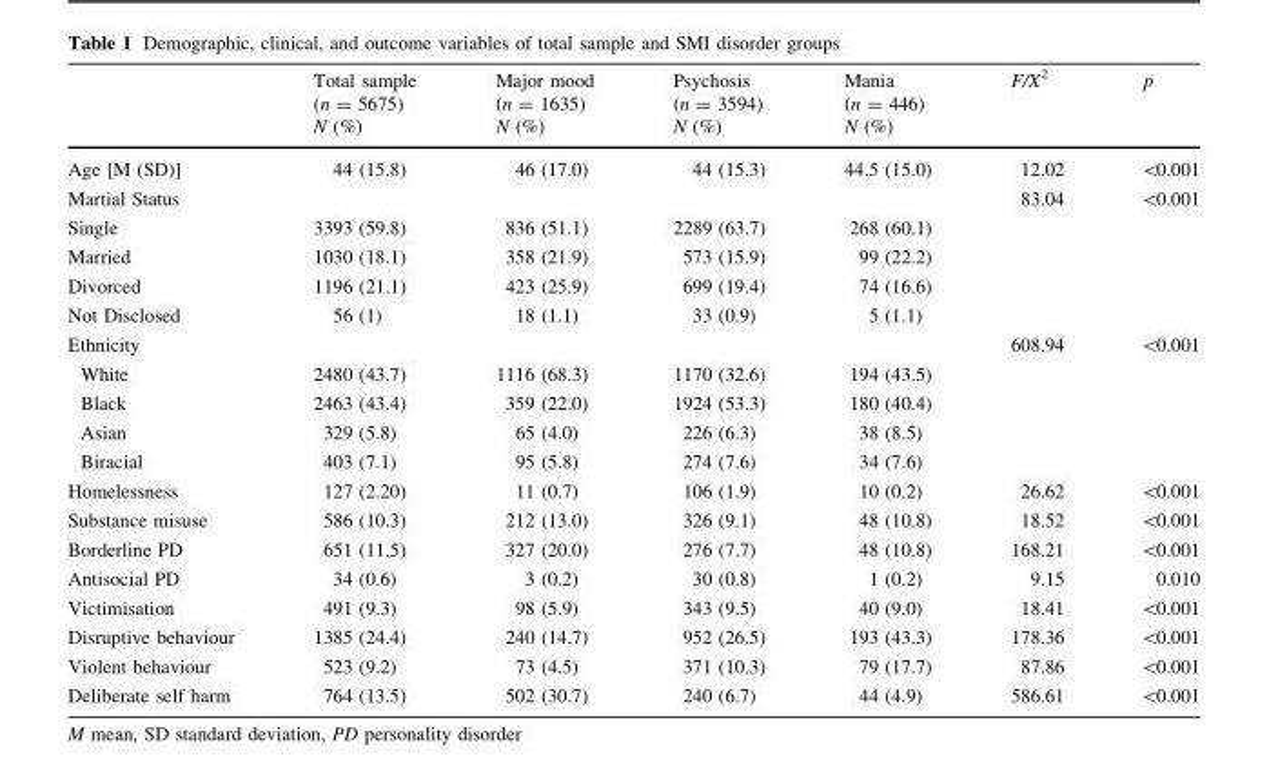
<table><thead><tr><td rowspan="2"></td><td rowspan="2">Total sample (n = 5675) N (%)</td><td rowspan="2">Major mood (n = 1635) N (%)</td><td rowspan="2">Psychosis (n = 3594) N (%)</td><td rowspan="2">Mania (n = 446) N (%)</td><td rowspan="2">F/X<sup>2</sup></td><td rowspan="2">p</td></tr><tr></tr></thead><tbody><tr><td>Age [M (SD)]</td><td>44 (15.8)</td><td>46 (17.0)</td><td>44 (15.3)</td><td>44.5 (15.0)</td><td>12.02</td><td>&lt;0.001</td></tr><tr><td>Martial Status</td><td></td><td></td><td></td><td></td><td>83.04</td><td>&lt;0.001</td></tr><tr><td>Single</td><td>3393 (59.8)</td><td>836 (51.1)</td><td>2289 (63.7)</td><td>268 (60.1)</td><td></td><td></td></tr><tr><td>Married</td><td>1030 (18.1)</td><td>358 (21.9)</td><td>573 (15.9)</td><td>99 (22.2)</td><td></td><td></td></tr><tr><td>Divorced</td><td>1196 (21.1)</td><td>423 (25.9)</td><td>699 (19.4)</td><td>74 (16.6)</td><td></td><td></td></tr><tr><td>Not Disclosed</td><td>56 (1)</td><td>18 (1.1)</td><td>33 (0.9)</td><td>5 (1.1)</td><td></td><td></td></tr><tr><td>Ethnicity</td><td></td><td></td><td></td><td></td><td>608.94</td><td>&lt;0.001</td></tr><tr><td>White</td><td>2480 (43.7)</td><td>1116 (68.3)</td><td>1170 (32.6)</td><td>194 (43.5)</td><td></td><td></td></tr><tr><td>Black</td><td>2463 (43.4)</td><td>359 (22.0)</td><td>1924 (53.3)</td><td>180 (40.4)</td><td></td><td></td></tr><tr><td>Asian</td><td>329 (5.8)</td><td>65 (4.0)</td><td>226 (6.3)</td><td>38 (8.5)</td><td></td><td></td></tr><tr><td>Biracial</td><td>403 (7.1)</td><td>95 (5.8)</td><td>274 (7.6)</td><td>34 (7.6)</td><td></td><td></td></tr><tr><td>Homelessness</td><td>127 (2.20)</td><td>11 (0.7)</td><td>106 (1.9)</td><td>10 (0.2)</td><td>26.62</td><td>&lt;0.001</td></tr><tr><td>Substance misuse</td><td>586 (10.3)</td><td>212 (13.0)</td><td>326 (9.1)</td><td>48 (10.8)</td><td>18.52</td><td>&lt;0.001</td></tr><tr><td>Borderline PD</td><td>651 (11.5)</td><td>327 (20.0)</td><td>276 (7.7)</td><td>48 (10.8)</td><td>168.21</td><td>&lt;0.001</td></tr><tr><td>Antisocial PD</td><td>34 (0.6)</td><td>3 (0.2)</td><td>30 (0.8)</td><td>1 (0.2)</td><td>9.15</td><td>0.010</td></tr><tr><td>Victimisation</td><td>491 (9.3)</td><td>98 (5.9)</td><td>343 (9.5)</td><td>40 (9.0)</td><td>18.41</td><td>&lt;0.001</td></tr><tr><td>Disruptive behaviour</td><td>1385 (24.4)</td><td>240 (14.7)</td><td>952 (26.5)</td><td>193 (43.3)</td><td>178.36</td><td>&lt;0.001</td></tr><tr><td>Violent behaviour</td><td>523 (9.2)</td><td>73 (4.5)</td><td>371 (10.3)</td><td>79 (17.7)</td><td>87.86</td><td>&lt;0.001</td></tr><tr><td>Deliberate self harm</td><td>764 (13.5)</td><td>502 (30.7)</td><td>240 (6.7)</td><td>44 (4.9)</td><td>586.61</td><td>&lt;0.001</td></tr></tbody></table>